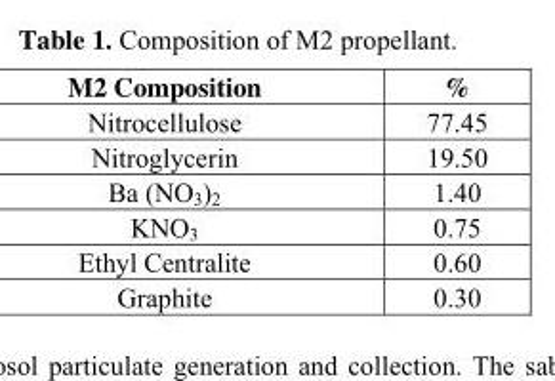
<table><thead><tr><td>M2 Composition</td><td>%</td></tr></thead><tbody><tr><td>Nitrocellulose</td><td>77.45</td></tr><tr><td>Nitroglycerin</td><td>19.50</td></tr><tr><td>Ba (NO<sub>3</sub>)<sub>2</sub></td><td>1.40</td></tr><tr><td>KNO<sub>3</sub></td><td>0.75</td></tr><tr><td>Ethyl Centralite</td><td>0.60</td></tr><tr><td>Graphite</td><td>0.30</td></tr></tbody></table>